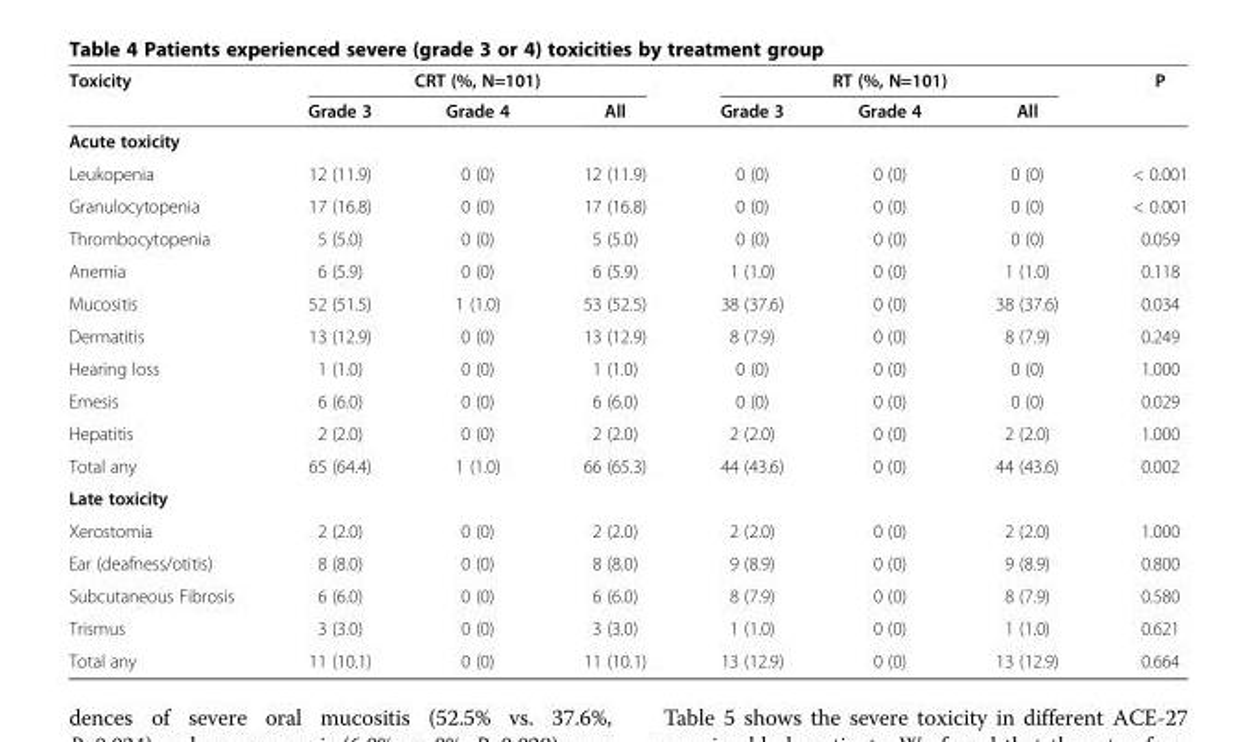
<table><thead><tr><td rowspan="2">Toxicity</td><td colspan="3">CRT (%, N=101)</td><td colspan="3">RT (%, N=101)</td><td rowspan="2">P</td></tr><tr><td>Grade 3</td><td>Grade 4</td><td>All</td><td>Grade 3</td><td>Grade 4</td><td>All</td></tr></thead><tbody><tr><td colspan="8">Acute toxicity</td></tr><tr><td>Leukopenia</td><td>12 (11.9)</td><td>0 (0)</td><td>12 (11.9)</td><td>0 (0)</td><td>0 (0)</td><td>0 (0)</td><td>&lt; 0.001</td></tr><tr><td>Granulocytopenia</td><td>17 (16.8)</td><td>0 (0)</td><td>17 (16.8)</td><td>0 (0)</td><td>0 (0)</td><td>0 (0)</td><td>&lt; 0.001</td></tr><tr><td>Thrombocytopenia</td><td>5 (5.0)</td><td>0 (0)</td><td>5 (5.0)</td><td>0 (0)</td><td>0 (0)</td><td>0 (0)</td><td>0.059</td></tr><tr><td>Anemia</td><td>6 (5.9)</td><td>0 (0)</td><td>6 (5.9)</td><td>1 (1.0)</td><td>0 (0)</td><td>1 (1.0)</td><td>0.118</td></tr><tr><td>Mucositis</td><td>52 (51.5)</td><td>1 (1.0)</td><td>53 (52.5)</td><td>38 (37.6)</td><td>0 (0)</td><td>38 (37.6)</td><td>0.034</td></tr><tr><td>Dermatitis</td><td>13 (12.9)</td><td>0 (0)</td><td>13 (12.9)</td><td>8 (7.9)</td><td>0 (0)</td><td>8 (7.9)</td><td>0.249</td></tr><tr><td>Hearing loss</td><td>1 (1.0)</td><td>0 (0)</td><td>1 (1.0)</td><td>0 (0)</td><td>0 (0)</td><td>0 (0)</td><td>1.000</td></tr><tr><td>Emesis</td><td>6 (6.0)</td><td>0 (0)</td><td>6 (6.0)</td><td>0 (0)</td><td>0 (0)</td><td>0 (0)</td><td>0.029</td></tr><tr><td>Hepatitis</td><td>2 (2.0)</td><td>0 (0)</td><td>2 (2.0)</td><td>2 (2.0)</td><td>0 (0)</td><td>2 (2.0)</td><td>1.000</td></tr><tr><td>Total any</td><td>65 (64.4)</td><td>1 (1.0)</td><td>66 (65.3)</td><td>44 (43.6)</td><td>0 (0)</td><td>44 (43.6)</td><td>0.002</td></tr><tr><td colspan="8">Late toxicity</td></tr><tr><td>Xerostomia</td><td>2 (2.0)</td><td>0 (0)</td><td>2 (2.0)</td><td>2 (2.0)</td><td>0 (0)</td><td>2 (2.0)</td><td>1.000</td></tr><tr><td>Ear (deafness/otitis)</td><td>8 (8.0)</td><td>0 (0)</td><td>8 (8.0)</td><td>9 (8.9)</td><td>0 (0)</td><td>9 (8.9)</td><td>0.800</td></tr><tr><td>Subcutaneous Fibrosis</td><td>6 (6.0)</td><td>0 (0)</td><td>6 (6.0)</td><td>8 (7.9)</td><td>0 (0)</td><td>8 (7.9)</td><td>0.580</td></tr><tr><td>Trismus</td><td>3 (3.0)</td><td>0 (0)</td><td>3 (3.0)</td><td>1 (1.0)</td><td>0 (0)</td><td>1 (1.0)</td><td>0.621</td></tr><tr><td>Total any</td><td>11 (10.1)</td><td>0 (0)</td><td>11 (10.1)</td><td>13 (12.9)</td><td>0 (0)</td><td>13 (12.9)</td><td>0.664</td></tr></tbody></table>